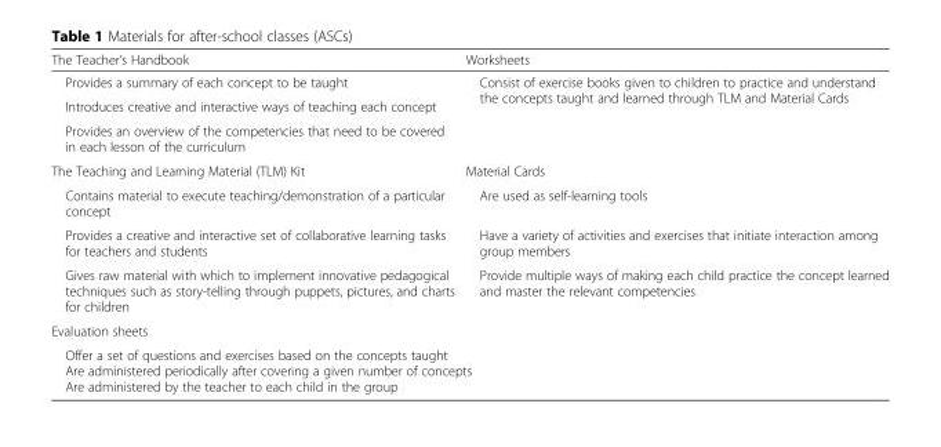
<table><thead><tr><td>The Teacher’s Handbook</td><td>Worksheets</td></tr></thead><tbody><tr><td>Provides a summary of each concept to be taught</td><td rowspan="3">Consist of exercise books given to children to practice and understand the concepts taught and learned through TLM and Material Cards</td></tr><tr><td>Introduces creative and interactive ways of teaching each concept</td></tr><tr><td>Provides an overview of the competencies that need to be covered in each lesson of the curriculum</td></tr><tr><td>The Teaching and Learning Material (TLM) Kit</td><td>Material Cards</td></tr><tr><td>Contains material to execute teaching/demonstration of a particular concept</td><td>Are used as self-learning tools</td></tr><tr><td>Provides a creative and interactive set of collaborative learning tasks for teachers and students</td><td>Have a variety of activities and exercises that initiate interaction among group members</td></tr><tr><td>Gives raw material with which to implement innovative pedagogical techniques such as story-telling through puppets, pictures, and charts for children</td><td>Provide multiple ways of making each child practice the concept learned and master the relevant competencies</td></tr><tr><td colspan="2">Evaluation sheets</td></tr><tr><td colspan="2">Offer a set of questions and exercises based on the concepts taught Are administered periodically after covering a given number of concepts Are administered by the teacher to each child in the group</td></tr></tbody></table>